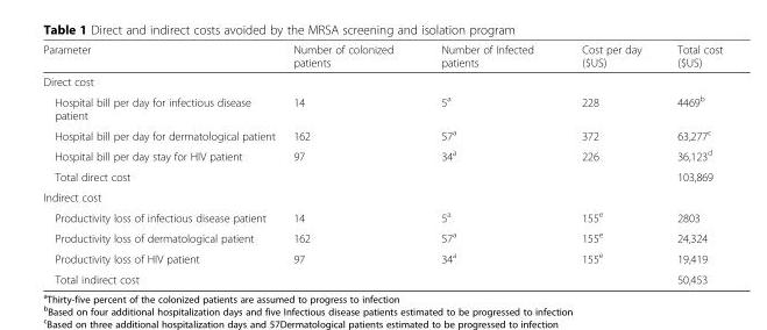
<table><thead><tr><td>Parameter</td><td>Number of colonized patients</td><td>Number of Infected patients</td><td>Cost per day ($US)</td><td>Total cost ($US)</td></tr></thead><tbody><tr><td colspan="5">Direct cost</td></tr><tr><td>Hospital bill per day for infectious disease patient</td><td>14</td><td>5<sup>a</sup></td><td>228</td><td>4469<sup>b</sup></td></tr><tr><td>Hospital bill per day for dermatological patient</td><td>162</td><td>57<sup>a</sup></td><td>372</td><td>63,277<sup>c</sup></td></tr><tr><td>Hospital bill per day stay for HIV patient</td><td>97</td><td>34<sup>a</sup></td><td>226</td><td>36,123<sup>d</sup></td></tr><tr><td>Total direct cost</td><td></td><td></td><td></td><td>103,869</td></tr><tr><td colspan="5">Indirect cost</td></tr><tr><td>Productivity loss of infectious disease patient</td><td>14</td><td>5<sup>a</sup></td><td>155<sup>e</sup></td><td>2803</td></tr><tr><td>Productivity loss of dermatological patient</td><td>162</td><td>57<sup>a</sup></td><td>155<sup>e</sup></td><td>24,324</td></tr><tr><td>Productivity loss of HIV patient</td><td>97</td><td>34<sup>a</sup></td><td>155<sup>e</sup></td><td>19,419</td></tr><tr><td>Total indirect cost</td><td></td><td></td><td></td><td>50,453</td></tr></tbody></table>